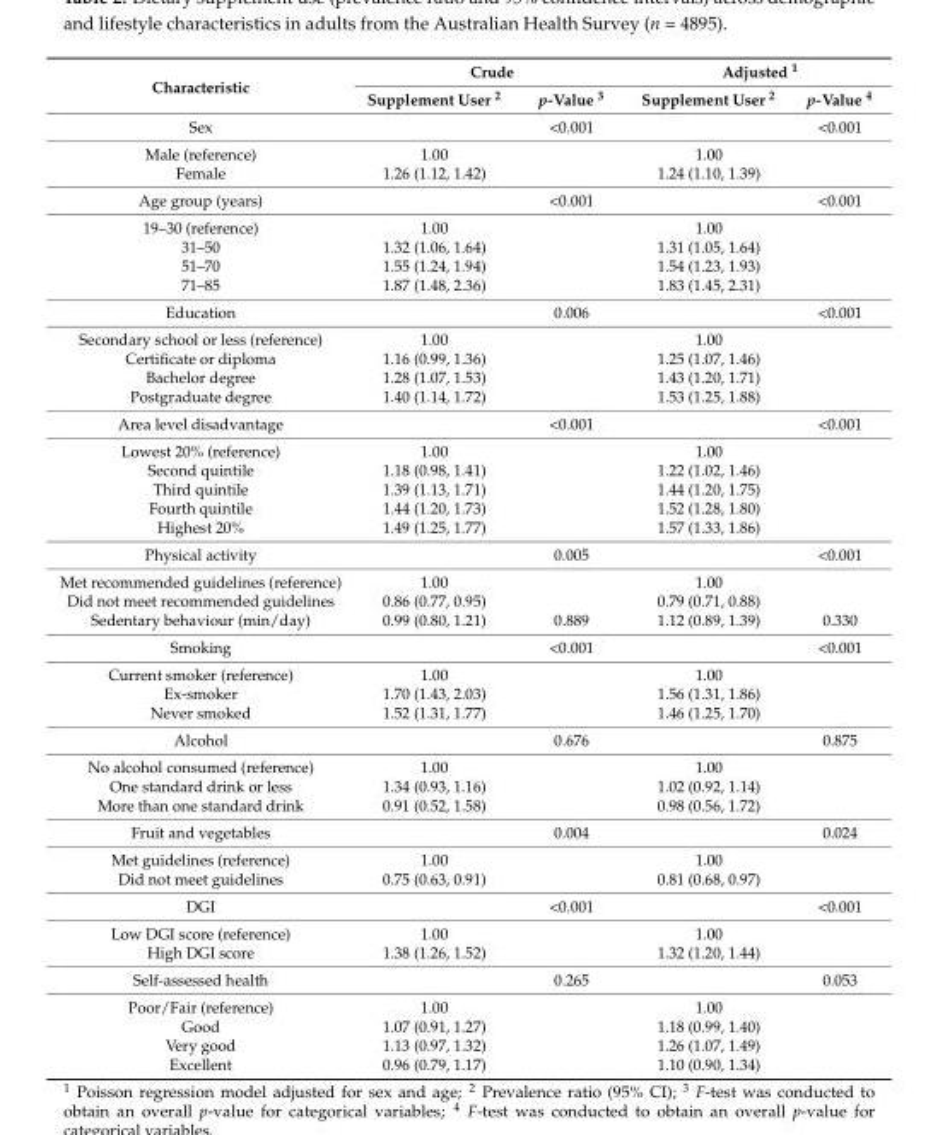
<table><thead><tr><td rowspan="2">Characteristic</td><td colspan="2">Crude</td><td colspan="2">Adjusted <sup>1</sup></td></tr><tr><td>Supplement User <sup>2</sup></td><td>p-Value <sup>3</sup></td><td>Supplement User <sup>2</sup></td><td>p-Value <sup>4</sup></td></tr></thead><tbody><tr><td>Sex</td><td></td><td>&lt;0.001</td><td></td><td>&lt;0.001</td></tr><tr><td>Male (reference)</td><td>1.00</td><td></td><td>1.00</td><td></td></tr><tr><td>Female</td><td>1.26 (1.12, 1.42)</td><td></td><td>1.24 (1.10, 1.39)</td><td></td></tr><tr><td>Age group (years)</td><td></td><td>&lt;0.001</td><td></td><td>&lt;0.001</td></tr><tr><td>19–30 (reference)</td><td>1.00</td><td></td><td>1.00</td><td></td></tr><tr><td>31–50</td><td>1.32 (1.06, 1.64)</td><td></td><td>1.31 (1.05, 1.64)</td><td></td></tr><tr><td>51–70</td><td>1.55 (1.24, 1.94)</td><td></td><td>1.54 (1.23, 1.93)</td><td></td></tr><tr><td>71–85</td><td>1.87 (1.48, 2.36)</td><td></td><td>1.83 (1.45, 2.31)</td><td></td></tr><tr><td>Education</td><td></td><td>0.006</td><td></td><td>&lt;0.001</td></tr><tr><td>Secondary school or less (reference)</td><td>1.00</td><td></td><td>1.00</td><td></td></tr><tr><td>Certificate or diploma</td><td>1.16 (0.99, 1.36)</td><td></td><td>1.25 (1.07, 1.46)</td><td></td></tr><tr><td>Bachelor degree</td><td>1.28 (1.07, 1.53)</td><td></td><td>1.43 (1.20, 1.71)</td><td></td></tr><tr><td>Postgraduate degree</td><td>1.40 (1.14, 1.72)</td><td></td><td>1.53 (1.25, 1.88)</td><td></td></tr><tr><td>Area level disadvantage</td><td></td><td>&lt;0.001</td><td></td><td>&lt;0.001</td></tr><tr><td>Lowest 20% (reference)</td><td>1.00</td><td></td><td>1.00</td><td></td></tr><tr><td>Second quintile</td><td>1.18 (0.98, 1.41)</td><td></td><td>1.22 (1.02, 1.46)</td><td></td></tr><tr><td>Third quintile</td><td>1.39 (1.13, 1.71)</td><td></td><td>1.44 (1.20, 1.75)</td><td></td></tr><tr><td>Fourth quintile</td><td>1.44 (1.20, 1.73)</td><td></td><td>1.52 (1.28, 1.80)</td><td></td></tr><tr><td>Highest 20%</td><td>1.49 (1.25, 1.77)</td><td></td><td>1.57 (1.33, 1.86)</td><td></td></tr><tr><td>Physical activity</td><td></td><td>0.005</td><td></td><td>&lt;0.001</td></tr><tr><td>Met recommended guidelines (reference)</td><td>1.00</td><td></td><td>1.00</td><td></td></tr><tr><td>Did not meet recommended guidelines</td><td>0.86 (0.77, 0.95)</td><td></td><td>0.79 (0.71, 0.88)</td><td></td></tr><tr><td>Sedentary behaviour (min/day)</td><td>0.99 (0.80, 1.21)</td><td>0.889</td><td>1.12 (0.89, 1.39)</td><td>0.330</td></tr><tr><td>Smoking</td><td></td><td>&lt;0.001</td><td></td><td>&lt;0.001</td></tr><tr><td>Current smoker (reference)</td><td>1.00</td><td></td><td>1.00</td><td></td></tr><tr><td>Ex-smoker</td><td>1.70 (1.43, 2.03)</td><td></td><td>1.56 (1.31, 1.86)</td><td></td></tr><tr><td>Never smoked</td><td>1.52 (1.31, 1.77)</td><td></td><td>1.46 (1.25, 1.70)</td><td></td></tr><tr><td>Alcohol</td><td></td><td>0.676</td><td></td><td>0.875</td></tr><tr><td>No alcohol consumed (reference)</td><td>1.00</td><td></td><td>1.00</td><td></td></tr><tr><td>One standard drink or less</td><td>1.34 (0.93, 1.16)</td><td></td><td>1.02 (0.92, 1.14)</td><td></td></tr><tr><td>More than one standard drink</td><td>0.91 (0.52, 1.58)</td><td></td><td>0.98 (0.56, 1.72)</td><td></td></tr><tr><td>Fruit and vegetables</td><td></td><td>0.004</td><td></td><td>0.024</td></tr><tr><td>Met guidelines (reference)</td><td>1.00</td><td></td><td>1.00</td><td></td></tr><tr><td>Did not meet guidelines</td><td>0.75 (0.63, 0.91)</td><td></td><td>0.81 (0.68, 0.97)</td><td></td></tr><tr><td>DGI</td><td></td><td>&lt;0.001</td><td></td><td>&lt;0.001</td></tr><tr><td>Low DGI score (reference)</td><td>1.00</td><td></td><td>1.00</td><td></td></tr><tr><td>High DGI score</td><td>1.38 (1.26, 1.52)</td><td></td><td>1.32 (1.20, 1.44)</td><td></td></tr><tr><td>Self-assessed health</td><td></td><td>0.265</td><td></td><td>0.053</td></tr><tr><td>Poor/Fair (reference)</td><td>1.00</td><td></td><td>1.00</td><td></td></tr><tr><td>Good</td><td>1.07 (0.91, 1.27)</td><td></td><td>1.18 (0.99, 1.40)</td><td></td></tr><tr><td>Very good</td><td>1.13 (0.97, 1.32)</td><td></td><td>1.26 (1.07, 1.49)</td><td></td></tr><tr><td>Excellent</td><td>0.96 (0.79, 1.17)</td><td></td><td>1.10 (0.90, 1.34)</td><td></td></tr></tbody></table>